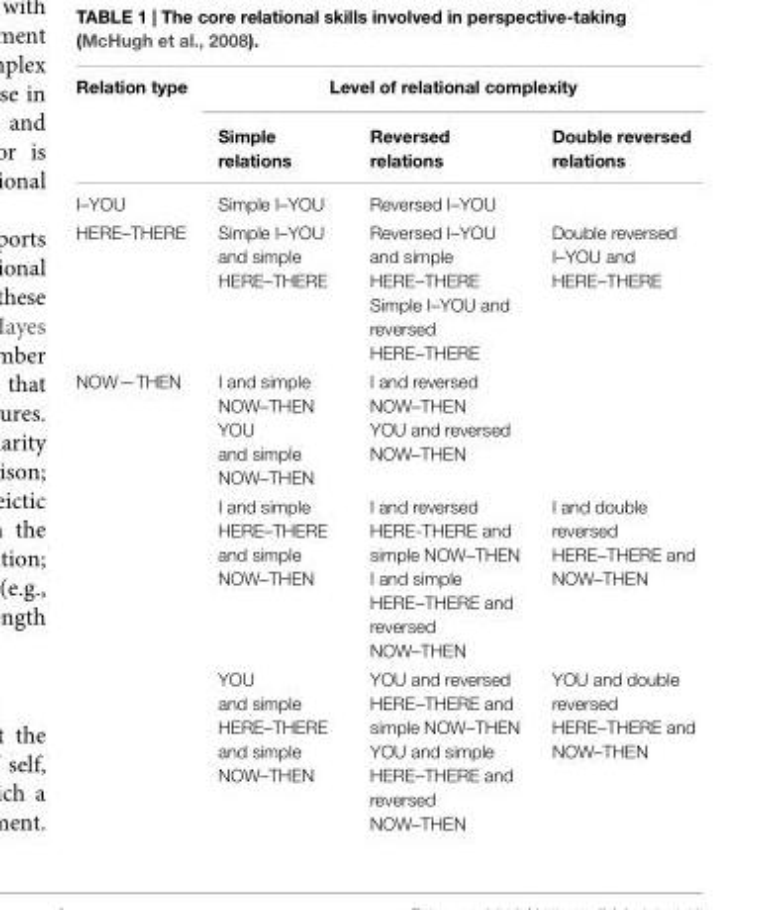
<table><thead><tr><td rowspan="2">Relation type</td><td colspan="3">Level of relational complexity</td></tr><tr><td>Simple relations</td><td>Reversed relations</td><td>Double reversed relations</td></tr></thead><tbody><tr><td>I–YOU</td><td>Simple I–YOU</td><td>Reversed I–YOU</td><td></td></tr><tr><td>HERE–THERE</td><td>Simple I–YOU and simple HERE–THERE</td><td>Reversed I–YOU and simple HERE–THERE Simple I–YOU and reversed HERE–THERE</td><td>Double reversed I–YOU and HERE–THERE</td></tr><tr><td rowspan="3">NOW—THEN</td><td>I and simple NOW–THEN YOU and simple NOW–THEN</td><td>I and reversed NOW–THEN YOU and reversed NOW–THEN</td><td></td></tr><tr><td>I and simple HERE–THERE and simple NOW–THEN</td><td>I and reversed HERE-THERE and simple NOW–THEN I and simple HERE–THERE and reversed NOW–THEN</td><td>I and double reversed HERE–THERE and NOW–THEN</td></tr><tr><td>YOU and simple HERE–THERE and simple NOW–THEN</td><td>YOU and reversed HERE–THERE and simple NOW–THEN YOU and simple HERE–THERE and reversed NOW–THEN</td><td>YOU and double reversed HERE–THERE and NOW–THEN</td></tr></tbody></table>